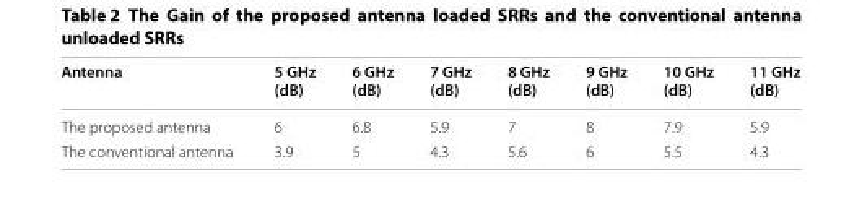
<table><thead><tr><td>Antenna</td><td>5 GHz (dB)</td><td>6 GHz (dB)</td><td>7 GHz (dB)</td><td>8 GHz (dB)</td><td>9 GHz (dB)</td><td>10 GHz (dB)</td><td>11 GHz (dB)</td></tr></thead><tbody><tr><td>The proposed antenna</td><td>6</td><td>6.8</td><td>5.9</td><td>7</td><td>8</td><td>7.9</td><td>5.9</td></tr><tr><td>The conventional antenna</td><td>3.9</td><td>5</td><td>4.3</td><td>5.6</td><td>6</td><td>5.5</td><td>4.3</td></tr></tbody></table>